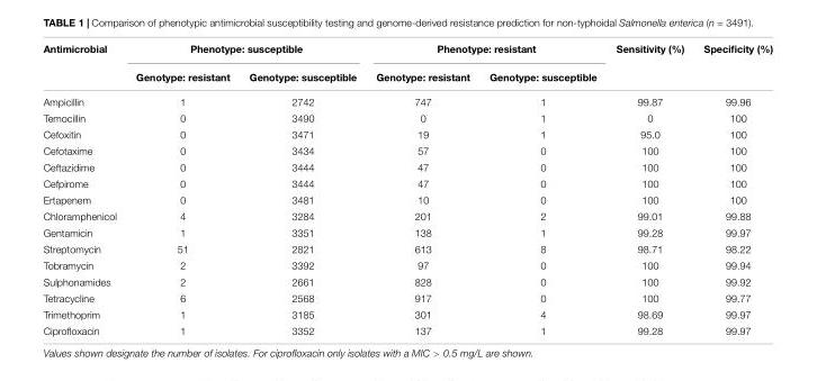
<table><thead><tr><td rowspan="2">Antimicrobial</td><td colspan="2">Phenotype: susceptible</td><td colspan="2">Phenotype: resistant</td><td rowspan="2">Sensitivity (%)</td><td rowspan="2">Specificity (%)</td></tr><tr><td>Genotype: resistant</td><td>Genotype: susceptible</td><td>Genotype: resistant</td><td>Genotype: susceptible</td></tr></thead><tbody><tr><td>Ampicillin</td><td>1</td><td>2742</td><td>747</td><td>1</td><td>99.87</td><td>99.96</td></tr><tr><td>Temocillin</td><td>0</td><td>3490</td><td>0</td><td>1</td><td>0</td><td>100</td></tr><tr><td>Cefoxitin</td><td>0</td><td>3471</td><td>19</td><td>1</td><td>95.0</td><td>100</td></tr><tr><td>Cefotaxime</td><td>0</td><td>3434</td><td>57</td><td>0</td><td>100</td><td>100</td></tr><tr><td>Ceftazidime</td><td>0</td><td>3444</td><td>47</td><td>0</td><td>100</td><td>100</td></tr><tr><td>Cefpirome</td><td>0</td><td>3444</td><td>47</td><td>0</td><td>100</td><td>100</td></tr><tr><td>Ertapenem</td><td>0</td><td>3481</td><td>10</td><td>0</td><td>100</td><td>100</td></tr><tr><td>Chloramphenicol</td><td>4</td><td>3284</td><td>201</td><td>2</td><td>99.01</td><td>99.88</td></tr><tr><td>Gentamicin</td><td>1</td><td>3351</td><td>138</td><td>1</td><td>99.28</td><td>99.97</td></tr><tr><td>Streptomycin</td><td>51</td><td>2821</td><td>613</td><td>8</td><td>98.71</td><td>98.22</td></tr><tr><td>Tobramycin</td><td>2</td><td>3392</td><td>97</td><td>0</td><td>100</td><td>99.94</td></tr><tr><td>Sulphonamides</td><td>2</td><td>2661</td><td>828</td><td>0</td><td>100</td><td>99.92</td></tr><tr><td>Tetracycline</td><td>6</td><td>2568</td><td>917</td><td>0</td><td>100</td><td>99.77</td></tr><tr><td>Trimethoprim</td><td>1</td><td>3185</td><td>301</td><td>4</td><td>98.69</td><td>99.97</td></tr><tr><td>Ciprofloxacin</td><td>1</td><td>3352</td><td>137</td><td>1</td><td>99.28</td><td>99.97</td></tr></tbody></table>